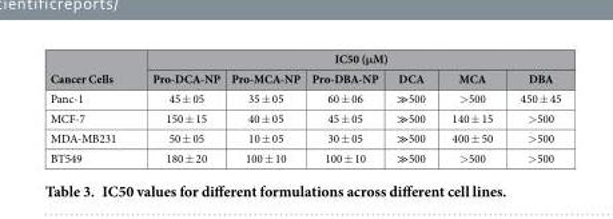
<table><thead><tr><td rowspan="2">Cancer Cells</td><td colspan="6">IC50 (μM)</td></tr><tr><td>Pro-DCA-NP</td><td>Pro-MCA-NP</td><td>Pro-DBA-NP</td><td>DCA</td><td>MCA</td><td>DBA</td></tr></thead><tbody><tr><td>Panc-1</td><td>45 ± 05</td><td>35 ± 05</td><td>60 ± 06</td><td>≫ 500</td><td>&gt; 500</td><td>450 ± 45</td></tr><tr><td>MCF-7</td><td>150 ± 15</td><td>40 ± 05</td><td>45 ± 05</td><td>≫ 500</td><td>140 ± 15</td><td>&gt; 500</td></tr><tr><td>MDA-MB231</td><td>50 ± 05</td><td>10 ± 05</td><td>30 ± 05</td><td>≫ 500</td><td>400 ± 50</td><td>&gt; 500</td></tr><tr><td>BT549</td><td>180 ± 20</td><td>100 ± 10</td><td>100 ± 10</td><td>≫ 500</td><td>&gt; 500</td><td>&gt; 500</td></tr></tbody></table>